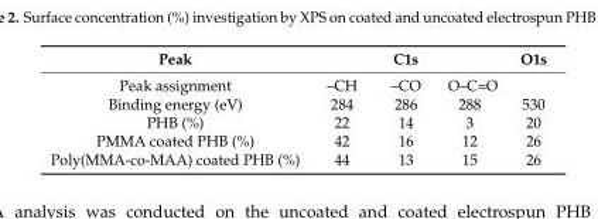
<table><thead><tr><td>Peak</td><td></td><td>C1s</td><td></td><td>O1s</td></tr></thead><tbody><tr><td>Peak assignment</td><td>–CH</td><td>–CO</td><td>O–C=O</td><td></td></tr><tr><td>Binding energy (eV)</td><td>284</td><td>286</td><td>288</td><td>530</td></tr><tr><td>PHB (%)</td><td>22</td><td>14</td><td>3</td><td>20</td></tr><tr><td>PMMA coated PHB (%)</td><td>42</td><td>16</td><td>12</td><td>26</td></tr><tr><td>Poly(MMA-co-MAA) coated PHB (%)</td><td>44</td><td>13</td><td>15</td><td>26</td></tr></tbody></table>